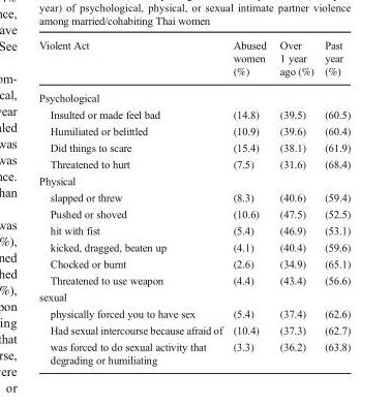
<table><thead><tr><td>Violent Act</td><td>Abused women (%)</td><td>Over 1 year ago (%)</td><td>Past year (%)</td></tr></thead><tbody><tr><td colspan="4">Psychological</td></tr><tr><td>Insulted or made feel bad</td><td>(14.8)</td><td>(39.5)</td><td>(60.5)</td></tr><tr><td>Humiliated or belittled</td><td>(10.9)</td><td>(39.6)</td><td>(60.4)</td></tr><tr><td>Did things to scare</td><td>(15.4)</td><td>(38.1)</td><td>(61.9)</td></tr><tr><td>Threatened to hurt</td><td>(7.5)</td><td>(31.6)</td><td>(68.4)</td></tr><tr><td colspan="4">Physical</td></tr><tr><td>slapped or threw</td><td>(8.3)</td><td>(40.6)</td><td>(59.4)</td></tr><tr><td>Pushed or shoved</td><td>(10.6)</td><td>(47.5)</td><td>(52.5)</td></tr><tr><td>hit with fist</td><td>(5.4)</td><td>(46.9)</td><td>(53.1)</td></tr><tr><td>kicked, dragged, beaten up</td><td>(4.1)</td><td>(40.4)</td><td>(59.6)</td></tr><tr><td>Chocked or burnt</td><td>(2.6)</td><td>(34.9)</td><td>(65.1)</td></tr><tr><td>Threatened to use weapon</td><td>(4.4)</td><td>(43.4)</td><td>(56.6)</td></tr><tr><td colspan="4">sexual</td></tr><tr><td>physically forced you to have sex</td><td>(5.4)</td><td>(37.4)</td><td>(62.6)</td></tr><tr><td>Had sexual intercourse because afraid of</td><td>(10.4)</td><td>(37.3)</td><td>(62.7)</td></tr><tr><td>was forced to do sexual activity that degrading or humiliating</td><td>(3.3)</td><td>(36.2)</td><td>(63.8)</td></tr></tbody></table>